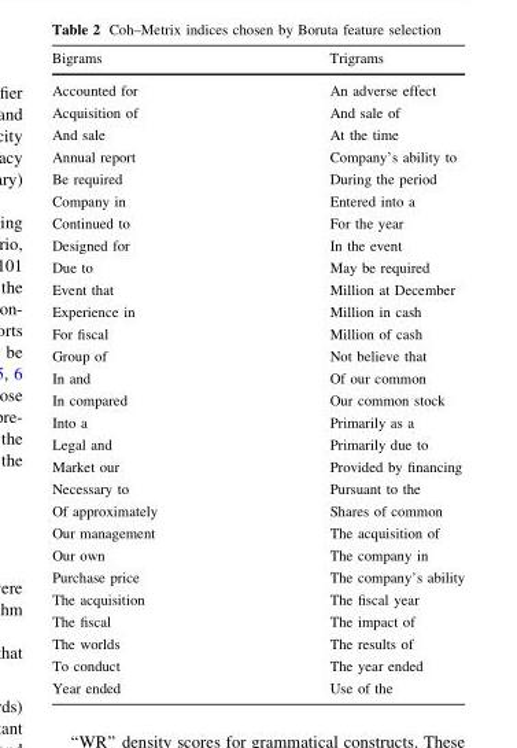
<table><thead><tr><td>Bigrams</td><td>Trigrams</td></tr></thead><tbody><tr><td>Accounted for</td><td>An adverse effect</td></tr><tr><td>Acquisition of</td><td>And sale of</td></tr><tr><td>And sale</td><td>At the time</td></tr><tr><td>Annual report</td><td>Company’s ability to</td></tr><tr><td>Be required</td><td>During the period</td></tr><tr><td>Company in</td><td>Entered into a</td></tr><tr><td>Continued to</td><td>For the year</td></tr><tr><td>Designed for</td><td>In the event</td></tr><tr><td>Due to</td><td>May be required</td></tr><tr><td>Event that</td><td>Million at December</td></tr><tr><td>Experience in</td><td>Million in cash</td></tr><tr><td>For fiscal</td><td>Million of cash</td></tr><tr><td>Group of</td><td>Not believe that</td></tr><tr><td>In and</td><td>Of our common</td></tr><tr><td>In compared</td><td>Our common stock</td></tr><tr><td>Into a</td><td>Primarily as a</td></tr><tr><td>Legal and</td><td>Primarily due to</td></tr><tr><td>Market our</td><td>Provided by financing</td></tr><tr><td>Necessary to</td><td>Pursuant to the</td></tr><tr><td>Of approximately</td><td>Shares of common</td></tr><tr><td>Our management</td><td>The acquisition of</td></tr><tr><td>Our own</td><td>The company in</td></tr><tr><td>Purchase price</td><td>The company’s ability</td></tr><tr><td>The acquisition</td><td>The fiscal year</td></tr><tr><td>The fiscal</td><td>The impact of</td></tr><tr><td>The worlds</td><td>The results of</td></tr><tr><td>To conduct</td><td>The year ended</td></tr><tr><td>Year ended</td><td>Use of the</td></tr></tbody></table>